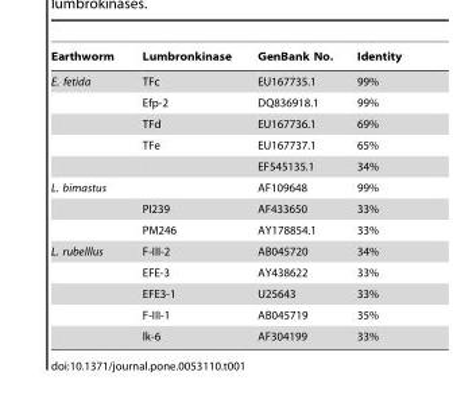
<table><thead><tr><td>Earthworm</td><td>Lumbronkinase</td><td>GenBank No.</td><td>Identity</td></tr></thead><tbody><tr><td rowspan="5">E. fetida</td><td>TFc</td><td>EU167735.1</td><td>99%</td></tr><tr><td>Efp-2</td><td>DQ836918.1</td><td>99%</td></tr><tr><td>TFd</td><td>EU167736.1</td><td>69%</td></tr><tr><td>TFe</td><td>EU167737.1</td><td>65%</td></tr><tr><td></td><td>EF545135.1</td><td>34%</td></tr><tr><td rowspan="3">L. bimastus</td><td></td><td>AF109648</td><td>99%</td></tr><tr><td>PI239</td><td>AF433650</td><td>33%</td></tr><tr><td>PM246</td><td>AY178854.1</td><td>33%</td></tr><tr><td rowspan="5">L. rubelllus</td><td>F-III-2</td><td>AB045720</td><td>34%</td></tr><tr><td>EFE-3</td><td>AY438622</td><td>33%</td></tr><tr><td>EFE3-1</td><td>U25643</td><td>33%</td></tr><tr><td>F-III-1</td><td>AB045719</td><td>35%</td></tr><tr><td>lk-6</td><td>AF304199</td><td>33%</td></tr></tbody></table>